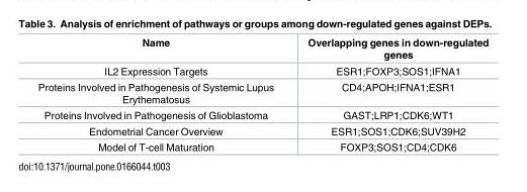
<table><thead><tr><td>Name</td><td>Overlapping genes in down-regulated genes</td></tr></thead><tbody><tr><td>IL2 Expression Targets</td><td>ESR1;FOXP3;SOS1;IFNA1</td></tr><tr><td>Proteins Involved in Pathogenesis of Systemic Lupus Erythematosus</td><td>CD4;APOH;IFNA1;ESR1</td></tr><tr><td>Proteins Involved in Pathogenesis of Glioblastoma</td><td>GAST;LRP1;CDK6;WT1</td></tr><tr><td>Endometrial Cancer Overview</td><td>ESR1;SOS1;CDK6;SUV39H2</td></tr><tr><td>Model of T-cell Maturation</td><td>FOXP3;SOS1;CD4;CDK6</td></tr></tbody></table>